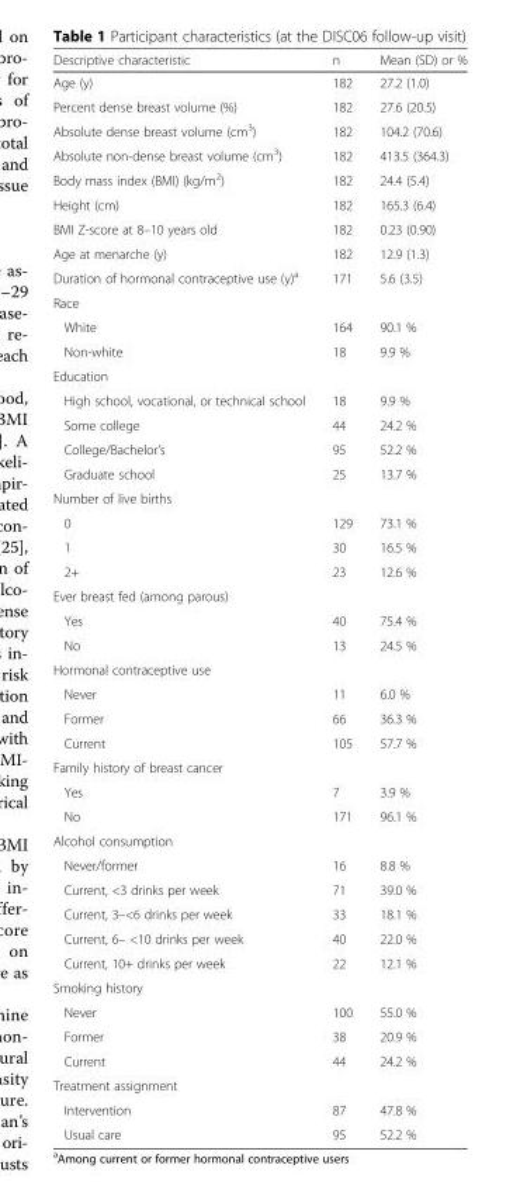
<table><thead><tr><td>Descriptive characteristic</td><td>n</td><td>Mean (SD) or %</td></tr></thead><tbody><tr><td>Age (y)</td><td>182</td><td>27.2 (1.0)</td></tr><tr><td>Percent dense breast volume (%)</td><td>182</td><td>27.6 (20.5)</td></tr><tr><td>Absolute dense breast volume (cm<sup>3</sup>)</td><td>182</td><td>104.2 (70.6)</td></tr><tr><td>Absolute non-dense breast volume (cm<sup>3</sup>)</td><td>182</td><td>413.5 (364.3)</td></tr><tr><td>Body mass index (BMI) (kg/m<sup>2</sup>)</td><td>182</td><td>24.4 (5.4)</td></tr><tr><td>Height (cm)</td><td>182</td><td>165.3 (6.4)</td></tr><tr><td>BMI Z-score at 8–10 years old</td><td>182</td><td>0.23 (0.90)</td></tr><tr><td>Age at menarche (y)</td><td>182</td><td>12.9 (1.3)</td></tr><tr><td>Duration of hormonal contraceptive use (y)<sup>a</sup></td><td>171</td><td>5.6 (3.5)</td></tr><tr><td colspan="3">Race</td></tr><tr><td>White</td><td>164</td><td>90.1 %</td></tr><tr><td>Non-white</td><td>18</td><td>9.9 %</td></tr><tr><td colspan="3">Education</td></tr><tr><td>High school, vocational, or technical school</td><td>18</td><td>9.9 %</td></tr><tr><td>Some college</td><td>44</td><td>24.2 %</td></tr><tr><td>College/Bachelor’s</td><td>95</td><td>52.2 %</td></tr><tr><td>Graduate school</td><td>25</td><td>13.7 %</td></tr><tr><td colspan="3">Number of live births</td></tr><tr><td>0</td><td>129</td><td>73.1 %</td></tr><tr><td>1</td><td>30</td><td>16.5 %</td></tr><tr><td>2+</td><td>23</td><td>12.6 %</td></tr><tr><td colspan="3">Ever breast fed (among parous)</td></tr><tr><td>Yes</td><td>40</td><td>75.4 %</td></tr><tr><td>No</td><td>13</td><td>24.5 %</td></tr><tr><td colspan="3">Hormonal contraceptive use</td></tr><tr><td>Never</td><td>11</td><td>6.0 %</td></tr><tr><td>Former</td><td>66</td><td>36.3 %</td></tr><tr><td>Current</td><td>105</td><td>57.7 %</td></tr><tr><td colspan="3">Family history of breast cancer</td></tr><tr><td>Yes</td><td>7</td><td>3.9 %</td></tr><tr><td>No</td><td>171</td><td>96.1 %</td></tr><tr><td colspan="3">Alcohol consumption</td></tr><tr><td>Never/former</td><td>16</td><td>8.8 %</td></tr><tr><td>Current, &lt;3 drinks per week</td><td>71</td><td>39.0 %</td></tr><tr><td>Current, 3–&lt;6 drinks per week</td><td>33</td><td>18.1 %</td></tr><tr><td>Current, 6– &lt;10 drinks per week</td><td>40</td><td>22.0 %</td></tr><tr><td>Current, 10+ drinks per week</td><td>22</td><td>12.1 %</td></tr><tr><td colspan="3">Smoking history</td></tr><tr><td>Never</td><td>100</td><td>55.0 %</td></tr><tr><td>Former</td><td>38</td><td>20.9 %</td></tr><tr><td>Current</td><td>44</td><td>24.2 %</td></tr><tr><td colspan="3">Treatment assignment</td></tr><tr><td>Intervention</td><td>87</td><td>47.8 %</td></tr><tr><td>Usual care</td><td>95</td><td>52.2 %</td></tr></tbody></table>